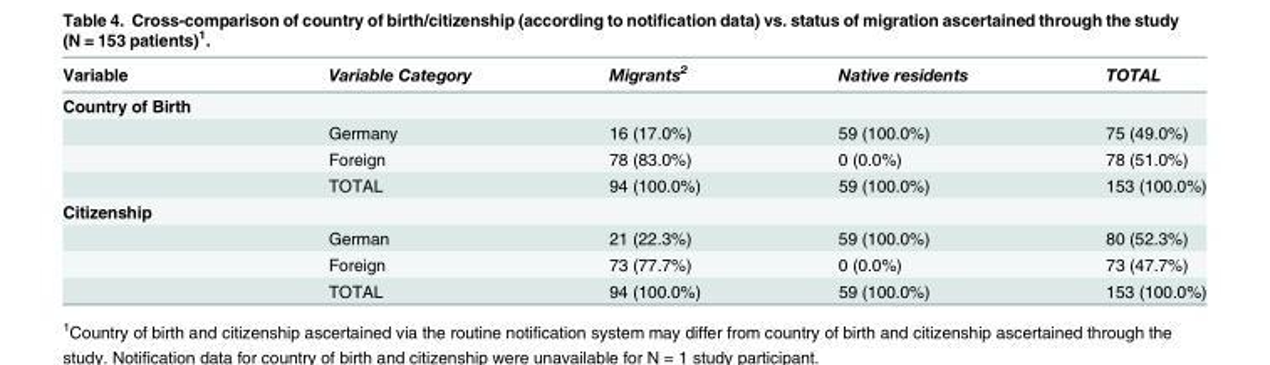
<table><thead><tr><td>Variable</td><td>Variable Category</td><td>Migrants<sup>2</sup></td><td>Native residents</td><td>TOTAL</td></tr></thead><tbody><tr><td colspan="5">Country of Birth</td></tr><tr><td></td><td>Germany</td><td>16 (17.0%)</td><td>59 (100.0%)</td><td>75 (49.0%)</td></tr><tr><td></td><td>Foreign</td><td>78 (83.0%)</td><td>0 (0.0%)</td><td>78 (51.0%)</td></tr><tr><td></td><td>TOTAL</td><td>94 (100.0%)</td><td>59 (100.0%)</td><td>153 (100.0%)</td></tr><tr><td colspan="5">Citizenship</td></tr><tr><td></td><td>German</td><td>21 (22.3%)</td><td>59 (100.0%)</td><td>80 (52.3%)</td></tr><tr><td></td><td>Foreign</td><td>73 (77.7%)</td><td>0 (0.0%)</td><td>73 (47.7%)</td></tr><tr><td></td><td>TOTAL</td><td>94 (100.0%)</td><td>59 (100.0%)</td><td>153 (100.0%)</td></tr></tbody></table>